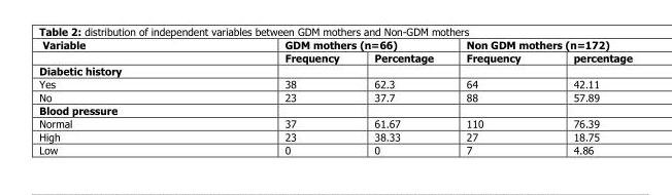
<table><thead><tr><td rowspan="2">Variable</td><td colspan="2">GDM mothers (n=66)</td><td colspan="2">Non GDM mothers (n=172)</td></tr><tr><td>Frequency</td><td>Percentage</td><td>Frequency</td><td>percentage</td></tr></thead><tbody><tr><td colspan="5">Diabetic history</td></tr><tr><td>Yes</td><td>38</td><td>62.3</td><td>64</td><td>42.11</td></tr><tr><td>No</td><td>23</td><td>37.7</td><td>88</td><td>57.89</td></tr><tr><td colspan="5">Blood pressure</td></tr><tr><td>Normal</td><td>37</td><td>61.67</td><td>110</td><td>76.39</td></tr><tr><td>High</td><td>23</td><td>38.33</td><td>27</td><td>18.75</td></tr><tr><td>Low</td><td>0</td><td>0</td><td>7</td><td>4.86</td></tr></tbody></table>